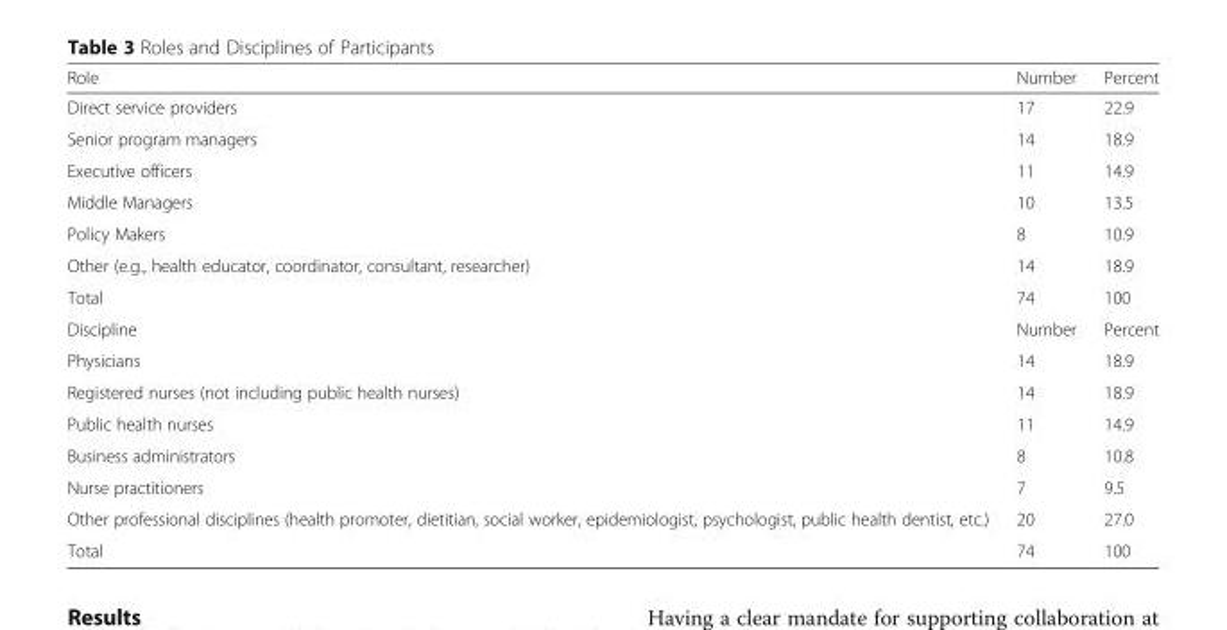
<table><thead><tr><td>Role</td><td>Number</td><td>Percent</td></tr></thead><tbody><tr><td>Direct service providers</td><td>17</td><td>22.9</td></tr><tr><td>Senior program managers</td><td>14</td><td>18.9</td></tr><tr><td>Executive officers</td><td>11</td><td>14.9</td></tr><tr><td>Middle Managers</td><td>10</td><td>13.5</td></tr><tr><td>Policy Makers</td><td>8</td><td>10.9</td></tr><tr><td>Other (e.g., health educator, coordinator, consultant, researcher)</td><td>14</td><td>18.9</td></tr><tr><td>Total</td><td>74</td><td>100</td></tr><tr><td>Discipline</td><td>Number</td><td>Percent</td></tr><tr><td>Physicians</td><td>14</td><td>18.9</td></tr><tr><td>Registered nurses (not including public health nurses)</td><td>14</td><td>18.9</td></tr><tr><td>Public health nurses</td><td>11</td><td>14.9</td></tr><tr><td>Business administrators</td><td>8</td><td>10.8</td></tr><tr><td>Nurse practitioners</td><td>7</td><td>9.5</td></tr><tr><td>Other professional disciplines (health promoter, dietitian, social worker, epidemiologist, psychologist, public health dentist, etc.)</td><td>20</td><td>27.0</td></tr><tr><td>Total</td><td>74</td><td>100</td></tr></tbody></table>